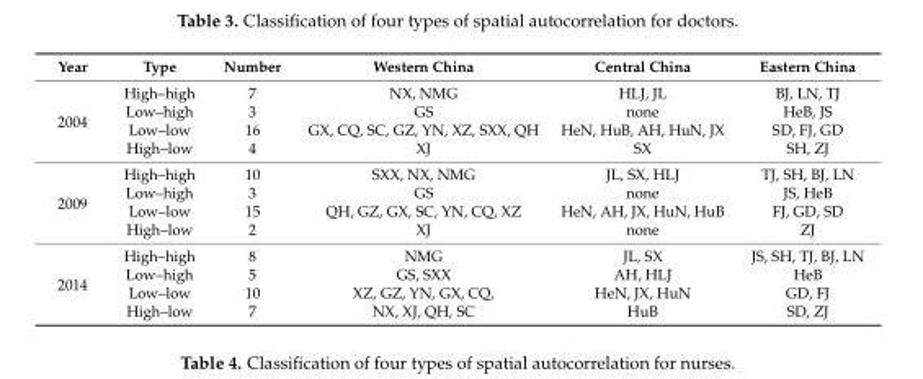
<table><thead><tr><td>Year</td><td>Type</td><td>Number</td><td>Western China</td><td>Central China</td><td>Eastern China</td></tr></thead><tbody><tr><td rowspan="4">2004</td><td>High–high</td><td>7</td><td>NX, NMG</td><td>HLJ, JL</td><td>BJ, LN, TJ</td></tr><tr><td>Low–high</td><td>3</td><td>GS</td><td>none</td><td>HeB, JS</td></tr><tr><td>Low–low</td><td>16</td><td>GX, CQ, SC, GZ, YN, XZ, SXX, QH</td><td>HeN, HuB, AH, HuN, JX</td><td>SD, FJ, GD</td></tr><tr><td>High–low</td><td>4</td><td>XJ</td><td>SX</td><td>SH, ZJ</td></tr><tr><td rowspan="4">2009</td><td>High–high</td><td>10</td><td>SXX, NX, NMG</td><td>JL, SX, HLJ</td><td>TJ, SH, BJ, LN</td></tr><tr><td>Low–high</td><td>3</td><td>GS</td><td>none</td><td>JS, HeB</td></tr><tr><td>Low–low</td><td>15</td><td>QH, GZ, GX, SC, YN, CQ, XZ</td><td>HeN, AH, JX, HuN, HuB</td><td>FJ, GD, SD</td></tr><tr><td>High–low</td><td>2</td><td>XJ</td><td>none</td><td>ZJ</td></tr><tr><td rowspan="4">2014</td><td>High–high</td><td>8</td><td>NMG</td><td>JL, SX</td><td>JS, SH, TJ, BJ, LN</td></tr><tr><td>Low–high</td><td>5</td><td>GS, SXX</td><td>AH, HLJ</td><td>HeB</td></tr><tr><td>Low–low</td><td>10</td><td>XZ, GZ, YN, GX, CQ,</td><td>HeN, JX, HuN</td><td>GD, FJ</td></tr><tr><td>High–low</td><td>7</td><td>NX, XJ, QH, SC</td><td>HuB</td><td>SD, ZJ</td></tr></tbody></table>